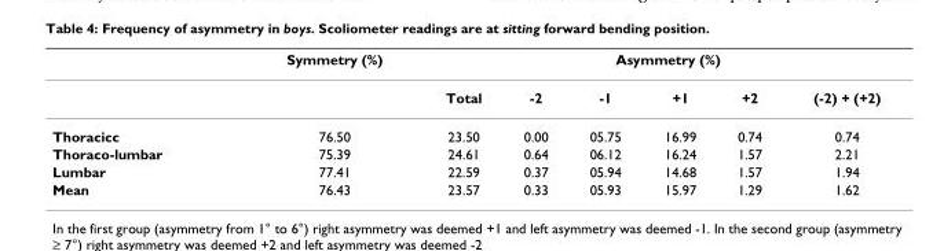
<table><thead><tr><td rowspan="2"></td><td rowspan="2">Symmetry (%)</td><td colspan="6">Asymmetry (%)</td></tr><tr><td>Total</td><td>-2</td><td>-1</td><td>+1</td><td>+2</td><td>(-2) + (+2)</td></tr></thead><tbody><tr><td>Thoracicc</td><td>76.50</td><td>23.50</td><td>0.00</td><td>05.75</td><td>16.99</td><td>0.74</td><td>0.74</td></tr><tr><td>Thoraco-lumbar</td><td>75.39</td><td>24.61</td><td>0.64</td><td>06.12</td><td>16.24</td><td>1.57</td><td>2.21</td></tr><tr><td>Lumbar</td><td>77.41</td><td>22.59</td><td>0.37</td><td>05.94</td><td>14.68</td><td>1.57</td><td>1.94</td></tr><tr><td>Mean</td><td>76.43</td><td>23.57</td><td>0.33</td><td>05.93</td><td>15.97</td><td>1.29</td><td>1.62</td></tr></tbody></table>